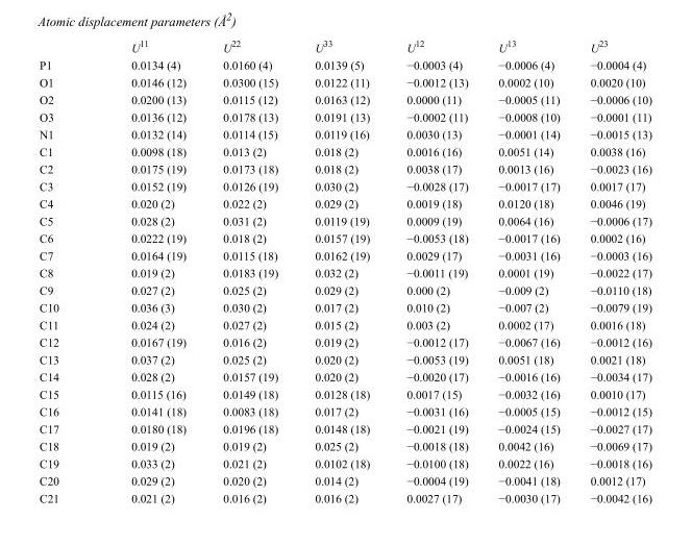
<table><thead><tr><td></td><td>U<sup>11</sup></td><td>U<sup>22</sup></td><td>U<sup>33</sup></td><td>U<sup>12</sup></td><td>U<sup>13</sup></td><td>U<sup>23</sup></td></tr></thead><tbody><tr><td>P1</td><td>0.0134 (4)</td><td>0.0160 (4)</td><td>0.0139 (5)</td><td>−0.0003 (4)</td><td>−0.0006 (4)</td><td>−0.0004 (4)</td></tr><tr><td>O1</td><td>0.0146 (12)</td><td>0.0300 (15)</td><td>0.0122 (11)</td><td>−0.0012 (13)</td><td>0.0002 (10)</td><td>0.0020 (10)</td></tr><tr><td>O2</td><td>0.0200 (13)</td><td>0.0115 (12)</td><td>0.0163 (12)</td><td>0.0000 (11)</td><td>−0.0005 (11)</td><td>−0.0006 (10)</td></tr><tr><td>O3</td><td>0.0136 (12)</td><td>0.0178 (13)</td><td>0.0191 (13)</td><td>−0.0002 (11)</td><td>−0.0008 (10)</td><td>−0.0001 (11)</td></tr><tr><td>N1</td><td>0.0132 (14)</td><td>0.0114 (15)</td><td>0.0119 (16)</td><td>0.0030 (13)</td><td>−0.0001 (14)</td><td>−0.0015 (13)</td></tr><tr><td>C1</td><td>0.0098 (18)</td><td>0.013 (2)</td><td>0.018 (2)</td><td>0.0016 (16)</td><td>0.0051 (14)</td><td>0.0038 (16)</td></tr><tr><td>C2</td><td>0.0175 (19)</td><td>0.0173 (18)</td><td>0.018 (2)</td><td>0.0038 (17)</td><td>0.0013 (16)</td><td>−0.0023 (16)</td></tr><tr><td>C3</td><td>0.0152 (19)</td><td>0.0126 (19)</td><td>0.030 (2)</td><td>−0.0028 (17)</td><td>−0.0017 (17)</td><td>0.0017 (17)</td></tr><tr><td>C4</td><td>0.020 (2)</td><td>0.022 (2)</td><td>0.029 (2)</td><td>0.0019 (18)</td><td>0.0120 (18)</td><td>0.0046 (19)</td></tr><tr><td>C5</td><td>0.028 (2)</td><td>0.031 (2)</td><td>0.0119 (19)</td><td>0.0009 (19)</td><td>0.0064 (16)</td><td>−0.0006 (17)</td></tr><tr><td>C6</td><td>0.0222 (19)</td><td>0.018 (2)</td><td>0.0157 (19)</td><td>−0.0053 (18)</td><td>−0.0017 (16)</td><td>0.0002 (16)</td></tr><tr><td>C7</td><td>0.0164 (19)</td><td>0.0115 (18)</td><td>0.0162 (19)</td><td>0.0029 (17)</td><td>−0.0031 (16)</td><td>−0.0003 (16)</td></tr><tr><td>C8</td><td>0.019 (2)</td><td>0.0183 (19)</td><td>0.032 (2)</td><td>−0.0011 (19)</td><td>0.0001 (19)</td><td>−0.0022 (17)</td></tr><tr><td>C9</td><td>0.027 (2)</td><td>0.025 (2)</td><td>0.029 (2)</td><td>0.000 (2)</td><td>−0.009 (2)</td><td>−0.0110 (18)</td></tr><tr><td>C10</td><td>0.036 (3)</td><td>0.030 (2)</td><td>0.017 (2)</td><td>0.010 (2)</td><td>−0.007 (2)</td><td>−0.0079 (19)</td></tr><tr><td>C11</td><td>0.024 (2)</td><td>0.027 (2)</td><td>0.015 (2)</td><td>0.003 (2)</td><td>0.0002 (17)</td><td>0.0016 (18)</td></tr><tr><td>C12</td><td>0.0167 (19)</td><td>0.016 (2)</td><td>0.019 (2)</td><td>−0.0012 (17)</td><td>−0.0067 (16)</td><td>−0.0012 (16)</td></tr><tr><td>C13</td><td>0.037 (2)</td><td>0.025 (2)</td><td>0.020 (2)</td><td>−0.0053 (19)</td><td>0.0051 (18)</td><td>0.0021 (18)</td></tr><tr><td>C14</td><td>0.028 (2)</td><td>0.0157 (19)</td><td>0.020 (2)</td><td>−0.0020 (17)</td><td>−0.0016 (16)</td><td>−0.0034 (17)</td></tr><tr><td>C15</td><td>0.0115 (16)</td><td>0.0149 (18)</td><td>0.0128 (18)</td><td>0.0017 (15)</td><td>−0.0032 (16)</td><td>0.0010 (17)</td></tr><tr><td>C16</td><td>0.0141 (18)</td><td>0.0083 (18)</td><td>0.017 (2)</td><td>−0.0031 (16)</td><td>−0.0005 (15)</td><td>−0.0012 (15)</td></tr><tr><td>C17</td><td>0.0180 (18)</td><td>0.0196 (18)</td><td>0.0148 (18)</td><td>−0.0021 (19)</td><td>−0.0024 (15)</td><td>−0.0027 (17)</td></tr><tr><td>C18</td><td>0.019 (2)</td><td>0.019 (2)</td><td>0.025 (2)</td><td>−0.0018 (18)</td><td>0.0042 (16)</td><td>−0.0069 (17)</td></tr><tr><td>C19</td><td>0.033 (2)</td><td>0.021 (2)</td><td>0.0102 (18)</td><td>−0.0100 (18)</td><td>0.0022 (16)</td><td>−0.0018 (16)</td></tr><tr><td>C20</td><td>0.029 (2)</td><td>0.020 (2)</td><td>0.014 (2)</td><td>−0.0004 (19)</td><td>−0.0041 (18)</td><td>0.0012 (17)</td></tr><tr><td>C21</td><td>0.021 (2)</td><td>0.016 (2)</td><td>0.016 (2)</td><td>0.0027 (17)</td><td>−0.0030 (17)</td><td>−0.0042 (16)</td></tr></tbody></table>